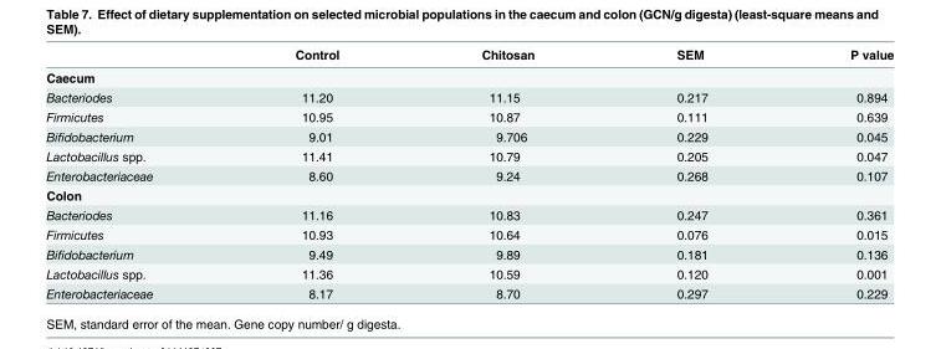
<table><thead><tr><td></td><td>Control</td><td>Chitosan</td><td>SEM</td><td>P value</td></tr></thead><tbody><tr><td colspan="5">Caecum</td></tr><tr><td>Bacteriodes</td><td>11.20</td><td>11.15</td><td>0.217</td><td>0.894</td></tr><tr><td>Firmicutes</td><td>10.95</td><td>10.87</td><td>0.111</td><td>0.639</td></tr><tr><td>Bifidobacterium</td><td>9.01</td><td>9.706</td><td>0.229</td><td>0.045</td></tr><tr><td>Lactobacillus spp.</td><td>11.41</td><td>10.79</td><td>0.205</td><td>0.047</td></tr><tr><td>Enterobacteriaceae</td><td>8.60</td><td>9.24</td><td>0.268</td><td>0.107</td></tr><tr><td colspan="5">Colon</td></tr><tr><td>Bacteriodes</td><td>11.16</td><td>10.83</td><td>0.247</td><td>0.361</td></tr><tr><td>Firmicutes</td><td>10.93</td><td>10.64</td><td>0.076</td><td>0.015</td></tr><tr><td>Bifidobacterium</td><td>9.49</td><td>9.89</td><td>0.181</td><td>0.136</td></tr><tr><td>Lactobacillus spp.</td><td>11.36</td><td>10.59</td><td>0.120</td><td>0.001</td></tr><tr><td>Enterobacteriaceae</td><td>8.17</td><td>8.70</td><td>0.297</td><td>0.229</td></tr></tbody></table>